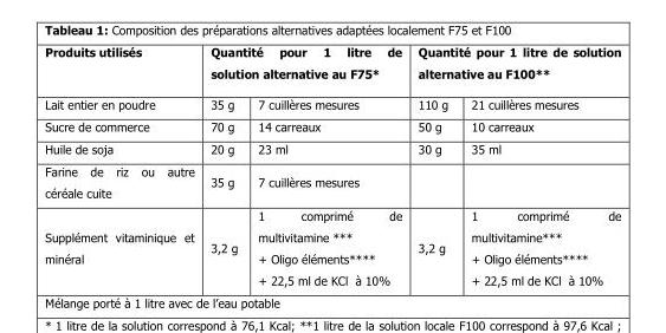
<table><thead><tr><td rowspan="2">Produits utilisés Lait entier en poudre</td><td colspan="2">Quantité pour 1 litre de solution alternative au F75*</td><td colspan="2">Quantité pour 1 litre de solution alternative au F100**</td></tr><tr><td>35 g</td><td>7 cuillères mesures</td><td>110 g</td><td>21 cuillères mesures</td></tr></thead><tbody><tr><td>Sucre de commerce</td><td>70 g</td><td>14 carreaux</td><td>50 g</td><td>10 carreaux</td></tr><tr><td>Huile de soja</td><td>20 g</td><td>23 ml</td><td>30 g</td><td>35 ml</td></tr><tr><td>Farine de riz ou autre céréale cuite</td><td>35 g</td><td>7 cuillères mesures</td><td></td><td></td></tr><tr><td>Supplément vitaminique et minéral</td><td>3,2 g</td><td>1 comprimé de multivitamine *** + Oligo éléments**** + 22,5 ml de KCl à 10%</td><td>3,2 g</td><td>1 comprimé de multivitamine*** + Oligo éléments**** + 22,5 ml de KCl à 10%</td></tr></tbody></table>